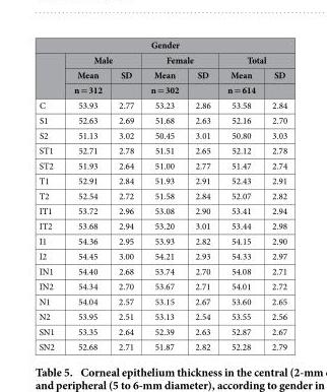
<table><thead><tr><td colspan="7">Gender</td></tr><tr><td rowspan="3"></td><td colspan="2">Male</td><td colspan="2">Female</td><td colspan="2">Total</td></tr><tr><td rowspan="2">Mean n = 312</td><td rowspan="2">SD</td><td rowspan="2">Mean n = 302</td><td rowspan="2">SD</td><td rowspan="2">Mean n = 614</td><td rowspan="2">SD</td></tr><tr></tr></thead><tbody><tr><td>C</td><td>53.93</td><td>2.77</td><td>53.23</td><td>2.86</td><td>53.58</td><td>2.84</td></tr><tr><td>S1</td><td>52.63</td><td>2.69</td><td>51.68</td><td>2.63</td><td>52.16</td><td>2.70</td></tr><tr><td>S2</td><td>51.13</td><td>3.02</td><td>50.45</td><td>3.01</td><td>50.80</td><td>3.03</td></tr><tr><td>ST1</td><td>52.71</td><td>2.78</td><td>51.51</td><td>2.65</td><td>52.12</td><td>2.78</td></tr><tr><td>ST2</td><td>51.93</td><td>2.64</td><td>51.00</td><td>2.77</td><td>51.47</td><td>2.74</td></tr><tr><td>T1</td><td>52.91</td><td>2.84</td><td>51.93</td><td>2.91</td><td>52.43</td><td>2.91</td></tr><tr><td>T2</td><td>52.54</td><td>2.72</td><td>51.58</td><td>2.84</td><td>52.07</td><td>2.82</td></tr><tr><td>IT1</td><td>53.72</td><td>2.96</td><td>53.08</td><td>2.90</td><td>53.41</td><td>2.94</td></tr><tr><td>IT2</td><td>53.68</td><td>2.94</td><td>53.20</td><td>3.01</td><td>53.44</td><td>2.98</td></tr><tr><td>I1</td><td>54.36</td><td>2.95</td><td>53.93</td><td>2.82</td><td>54.15</td><td>2.90</td></tr><tr><td>I2</td><td>54.45</td><td>3.00</td><td>54.21</td><td>2.93</td><td>54.33</td><td>2.97</td></tr><tr><td>IN1</td><td>54.40</td><td>2.68</td><td>53.74</td><td>2.70</td><td>54.08</td><td>2.71</td></tr><tr><td>IN2</td><td>54.34</td><td>2.70</td><td>53.67</td><td>2.71</td><td>54.01</td><td>2.72</td></tr><tr><td>N1</td><td>54.04</td><td>2.57</td><td>53.15</td><td>2.67</td><td>53.60</td><td>2.65</td></tr><tr><td>N2</td><td>53.95</td><td>2.51</td><td>53.13</td><td>2.54</td><td>53.55</td><td>2.56</td></tr><tr><td>SN1</td><td>53.35</td><td>2.64</td><td>52.39</td><td>2.63</td><td>52.87</td><td>2.67</td></tr><tr><td>SN2</td><td>52.68</td><td>2.71</td><td>51.87</td><td>2.82</td><td>52.28</td><td>2.79</td></tr></tbody></table>